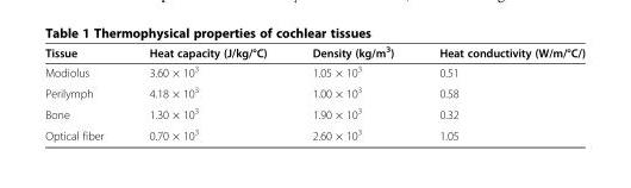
<table><thead><tr><td>Tissue</td><td>Heat capacity (J/kg/°C)</td><td>Density (kg/m<sup>3</sup>)</td><td>Heat conductivity (W/m/°C/)</td></tr></thead><tbody><tr><td>Modiolus</td><td>3.60 × 10<sup>3</sup></td><td>1.05 × 10<sup>3</sup></td><td>0.51</td></tr><tr><td>Perilymph</td><td>4.18 × 10<sup>3</sup></td><td>1.00 × 10<sup>3</sup></td><td>0.58</td></tr><tr><td>Bone</td><td>1.30 × 10<sup>3</sup></td><td>1.90 × 10<sup>3</sup></td><td>0.32</td></tr><tr><td>Optical fiber</td><td>0.70 × 10<sup>3</sup></td><td>2.60 × 10<sup>3</sup></td><td>1.05</td></tr></tbody></table>